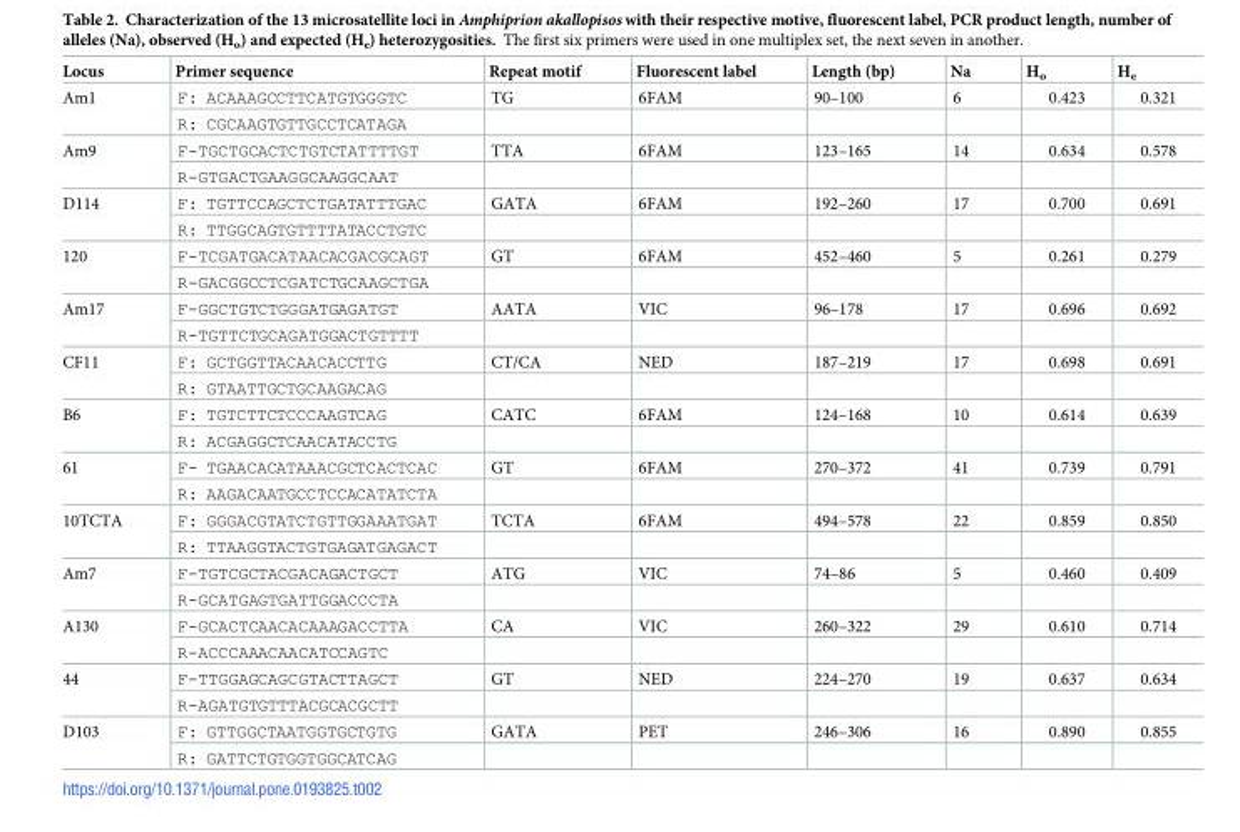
<table><thead><tr><td>Locus</td><td>Primer sequence</td><td>Repeat motif</td><td>Fluorescent label</td><td>Length (bp)</td><td>Na</td><td>H<sub>o</sub></td><td>H<sub>e</sub></td></tr></thead><tbody><tr><td rowspan="2">Am1</td><td>F: ACAAAGCCTTCATGTGGGTC</td><td>TG</td><td>6FAM</td><td>90–100</td><td>6</td><td>0.423</td><td>0.321</td></tr><tr><td>R: CGCAAGTGTTGCCTCATAGA</td><td></td><td></td><td></td><td></td><td></td><td></td></tr><tr><td rowspan="2">Am9</td><td>F-TGCTGCACTCTGTCTATTTTGT</td><td>TTA</td><td>6FAM</td><td>123–165</td><td>14</td><td>0.634</td><td>0.578</td></tr><tr><td>R-GTGACTGAAGGCAAGGCAAT</td><td></td><td></td><td></td><td></td><td></td><td></td></tr><tr><td rowspan="2">D114</td><td>F: TGTTCCAGCTCTGATATTTGAC</td><td>GATA</td><td>6FAM</td><td>192–260</td><td>17</td><td>0.700</td><td>0.691</td></tr><tr><td>R: TTGGCAGTGTTTTATACCTGTC</td><td></td><td></td><td></td><td></td><td></td><td></td></tr><tr><td rowspan="2">120</td><td>F-TCGATGACATAACACGACGCAGT</td><td>GT</td><td>6FAM</td><td>452–460</td><td>5</td><td>0.261</td><td>0.279</td></tr><tr><td>R-GACGGCCTCGATCTGCAAGCTGA</td><td></td><td></td><td></td><td></td><td></td><td></td></tr><tr><td rowspan="2">Am17</td><td>F-GGCTGTCTGGGATGAGATGT</td><td>AATA</td><td>VIC</td><td>96–178</td><td>17</td><td>0.696</td><td>0.692</td></tr><tr><td>R-TGTTCTGCAGATGGACTGTTTT</td><td></td><td></td><td></td><td></td><td></td><td></td></tr><tr><td rowspan="2">CF11</td><td>F: GCTGGTTACAACACCTTG</td><td>CT/CA</td><td>NED</td><td>187–219</td><td>17</td><td>0.698</td><td>0.691</td></tr><tr><td>R: GTAATTGCTGCAAGACAG</td><td></td><td></td><td></td><td></td><td></td><td></td></tr><tr><td rowspan="2">B6</td><td>F: TGTCTTCTCCCAAGTCAG</td><td>CATC</td><td>6FAM</td><td>124–168</td><td>10</td><td>0.614</td><td>0.639</td></tr><tr><td>R: ACGAGGCTCAACATACCTG</td><td></td><td></td><td></td><td></td><td></td><td></td></tr><tr><td rowspan="2">61</td><td>F- TGAACACATAAACGCTCACTCAC</td><td>GT</td><td>6FAM</td><td>270–372</td><td>41</td><td>0.739</td><td>0.791</td></tr><tr><td>R: AAGACAATGCCTCCACATATCTA</td><td></td><td></td><td></td><td></td><td></td><td></td></tr><tr><td rowspan="2">10TCTA</td><td>F: GGGACGTATCTGTTGGAAATGAT</td><td>TCTA</td><td>6FAM</td><td>494–578</td><td>22</td><td>0.859</td><td>0.850</td></tr><tr><td>R: TTAAGGTACTGTGAGATGAGACT</td><td></td><td></td><td></td><td></td><td></td><td></td></tr><tr><td rowspan="2">Am7</td><td>F-TGTCGCTACGACAGACTGCT</td><td>ATG</td><td>VIC</td><td>74–86</td><td>5</td><td>0.460</td><td>0.409</td></tr><tr><td>R-GCATGAGTGATTGGACCCTA</td><td></td><td></td><td></td><td></td><td></td><td></td></tr><tr><td rowspan="2">A130</td><td>F-GCACTCAACACAAAGACCTTA</td><td>CA</td><td>VIC</td><td>260–322</td><td>29</td><td>0.610</td><td>0.714</td></tr><tr><td>R-ACCCAAACAACATCCAGTC</td><td></td><td></td><td></td><td></td><td></td><td></td></tr><tr><td rowspan="2">44</td><td>F-TTGGAGCAGCGTACTTAGCT</td><td>GT</td><td>NED</td><td>224–270</td><td>19</td><td>0.637</td><td>0.634</td></tr><tr><td>R-AGATGTGTTTACGCACGCTT</td><td></td><td></td><td></td><td></td><td></td><td></td></tr><tr><td rowspan="2">D103</td><td>F: GTTGGCTAATGGTGCTGTG</td><td>GATA</td><td>PET</td><td>246–306</td><td>16</td><td>0.890</td><td>0.855</td></tr><tr><td>R: GATTCTGTGGTGGCATCAG</td><td></td><td></td><td></td><td></td><td></td><td></td></tr></tbody></table>